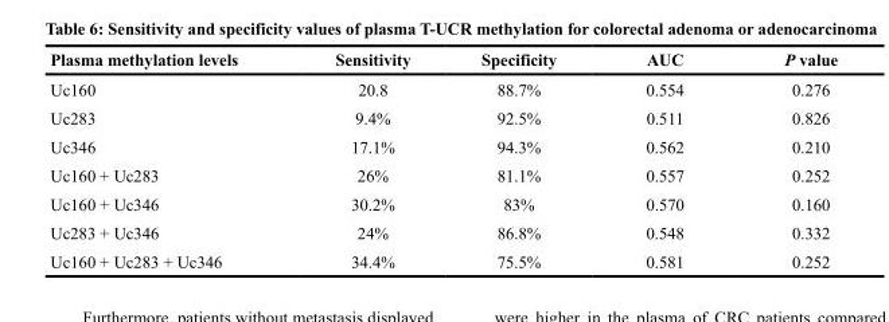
<table><thead><tr><td>Plasma methylation levels</td><td>Sensitivity</td><td>Specificity</td><td>AUC</td><td>P value</td></tr></thead><tbody><tr><td>Uc160</td><td>20.8</td><td>88.7%</td><td>0.554</td><td>0.276</td></tr><tr><td>Uc283</td><td>9.4%</td><td>92.5%</td><td>0.511</td><td>0.826</td></tr><tr><td>Uc346</td><td>17.1%</td><td>94.3%</td><td>0.562</td><td>0.210</td></tr><tr><td>Uc160 + Uc283</td><td>26%</td><td>81.1%</td><td>0.557</td><td>0.252</td></tr><tr><td>Uc160 + Uc346</td><td>30.2%</td><td>83%</td><td>0.570</td><td>0.160</td></tr><tr><td>Uc283 + Uc346</td><td>24%</td><td>86.8%</td><td>0.548</td><td>0.332</td></tr><tr><td>Uc160 + Uc283 + Uc346</td><td>34.4%</td><td>75.5%</td><td>0.581</td><td>0.252</td></tr></tbody></table>